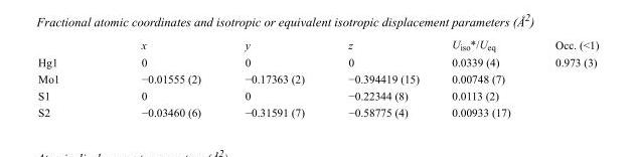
<table><thead><tr><td></td><td>x</td><td>y</td><td>z</td><td>U<sub>iso</sub>*/U<sub>eq</sub></td><td>Occ. (&lt;1)</td></tr></thead><tbody><tr><td>Hg1</td><td>0</td><td>0</td><td>0</td><td>0.0339 (4)</td><td>0.973 (3)</td></tr><tr><td>Mo1</td><td>−0.01555 (2)</td><td>−0.17363 (2)</td><td>−0.394419 (15)</td><td>0.00748 (7)</td><td></td></tr><tr><td>S1</td><td>0</td><td>0</td><td>−0.22344 (8)</td><td>0.0113 (2)</td><td></td></tr><tr><td>S2</td><td>−0.03460 (6)</td><td>−0.31591 (7)</td><td>−0.58775 (4)</td><td>0.00933 (17)</td><td></td></tr></tbody></table>